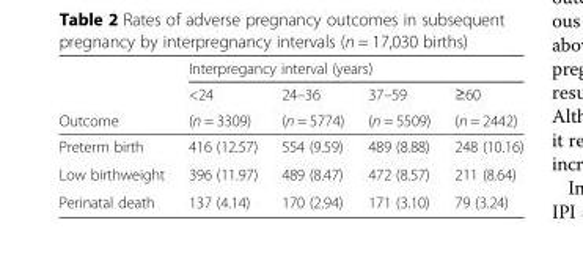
<table><thead><tr><td rowspan="3">Outcome</td><td colspan="4">Interpregancy interval (years)</td></tr><tr><td rowspan="2">&lt;24 (n = 3309)</td><td rowspan="2">24–36 (n = 5774)</td><td rowspan="2">37–59 (n = 5509)</td><td rowspan="2">≥60 (n = 2442)</td></tr><tr></tr></thead><tbody><tr><td>Preterm birth</td><td>416 (12.57)</td><td>554 (9.59)</td><td>489 (8.88)</td><td>248 (10.16)</td></tr><tr><td>Low birthweight</td><td>396 (11.97)</td><td>489 (8.47)</td><td>472 (8.57)</td><td>211 (8.64)</td></tr><tr><td>Perinatal death</td><td>137 (4.14)</td><td>170 (2.94)</td><td>171 (3.10)</td><td>79 (3.24)</td></tr></tbody></table>